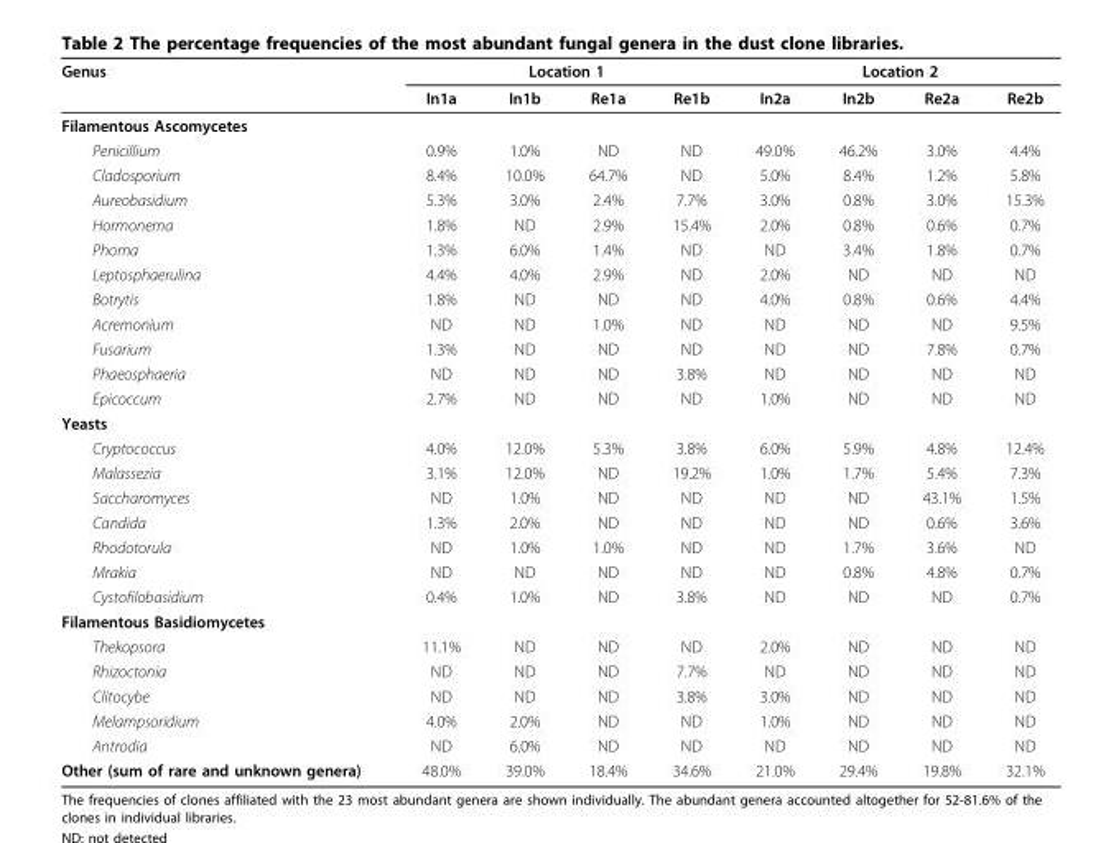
<table><thead><tr><td rowspan="2">Genus</td><td colspan="4">Location 1</td><td colspan="4">Location 2</td></tr><tr><td>In1a</td><td>In1b</td><td>Re1a</td><td>Re1b</td><td>In2a</td><td>In2b</td><td>Re2a</td><td>Re2b</td></tr></thead><tbody><tr><td colspan="9">Filamentous Ascomycetes</td></tr><tr><td>Penicillium</td><td>0.9%</td><td>1.0%</td><td>ND</td><td>ND</td><td>49.0%</td><td>46.2%</td><td>3.0%</td><td>4.4%</td></tr><tr><td>Cladosporium</td><td>8.4%</td><td>10.0%</td><td>64.7%</td><td>ND</td><td>5.0%</td><td>8.4%</td><td>1.2%</td><td>5.8%</td></tr><tr><td>Aureobasidium</td><td>5.3%</td><td>3.0%</td><td>2.4%</td><td>7.7%</td><td>3.0%</td><td>0.8%</td><td>3.0%</td><td>15.3%</td></tr><tr><td>Hormonema</td><td>1.8%</td><td>ND</td><td>2.9%</td><td>15.4%</td><td>2.0%</td><td>0.8%</td><td>0.6%</td><td>0.7%</td></tr><tr><td>Phoma</td><td>1.3%</td><td>6.0%</td><td>1.4%</td><td>ND</td><td>ND</td><td>3.4%</td><td>1.8%</td><td>0.7%</td></tr><tr><td>Leptosphaerulina</td><td>4.4%</td><td>4.0%</td><td>2.9%</td><td>ND</td><td>2.0%</td><td>ND</td><td>ND</td><td>ND</td></tr><tr><td>Botrytis</td><td>1.8%</td><td>ND</td><td>ND</td><td>ND</td><td>4.0%</td><td>0.8%</td><td>0.6%</td><td>4.4%</td></tr><tr><td>Acremonium</td><td>ND</td><td>ND</td><td>1.0%</td><td>ND</td><td>ND</td><td>ND</td><td>ND</td><td>9.5%</td></tr><tr><td>Fusarium</td><td>1.3%</td><td>ND</td><td>ND</td><td>ND</td><td>ND</td><td>ND</td><td>7.8%</td><td>0.7%</td></tr><tr><td>Phaeosphaeria</td><td>ND</td><td>ND</td><td>ND</td><td>3.8%</td><td>ND</td><td>ND</td><td>ND</td><td>ND</td></tr><tr><td>Epicoccum</td><td>2.7%</td><td>ND</td><td>ND</td><td>ND</td><td>1.0%</td><td>ND</td><td>ND</td><td>ND</td></tr><tr><td colspan="9">Yeasts</td></tr><tr><td>Cryptococcus</td><td>4.0%</td><td>12.0%</td><td>5.3%</td><td>3.8%</td><td>6.0%</td><td>5.9%</td><td>4.8%</td><td>12.4%</td></tr><tr><td>Malassezia</td><td>3.1%</td><td>12.0%</td><td>ND</td><td>19.2%</td><td>1.0%</td><td>1.7%</td><td>5.4%</td><td>7.3%</td></tr><tr><td>Saccharomyces</td><td>ND</td><td>1.0%</td><td>ND</td><td>ND</td><td>ND</td><td>ND</td><td>43.1%</td><td>1.5%</td></tr><tr><td>Candida</td><td>1.3%</td><td>2.0%</td><td>ND</td><td>ND</td><td>ND</td><td>ND</td><td>0.6%</td><td>3.6%</td></tr><tr><td>Rhodotorula</td><td>ND</td><td>1.0%</td><td>1.0%</td><td>ND</td><td>ND</td><td>1.7%</td><td>3.6%</td><td>ND</td></tr><tr><td>Mrakia</td><td>ND</td><td>ND</td><td>ND</td><td>ND</td><td>ND</td><td>0.8%</td><td>4.8%</td><td>0.7%</td></tr><tr><td>Cystofilobasidium</td><td>0.4%</td><td>1.0%</td><td>ND</td><td>3.8%</td><td>ND</td><td>ND</td><td>ND</td><td>0.7%</td></tr><tr><td colspan="9">Filamentous Basidiomycetes</td></tr><tr><td>Thekopsora</td><td>11.1%</td><td>ND</td><td>ND</td><td>ND</td><td>2.0%</td><td>ND</td><td>ND</td><td>ND</td></tr><tr><td>Rhizoctonia</td><td>ND</td><td>ND</td><td>ND</td><td>7.7%</td><td>ND</td><td>ND</td><td>ND</td><td>ND</td></tr><tr><td>Clitocybe</td><td>ND</td><td>ND</td><td>ND</td><td>3.8%</td><td>3.0%</td><td>ND</td><td>ND</td><td>ND</td></tr><tr><td>Melampsoridium</td><td>4.0%</td><td>2.0%</td><td>ND</td><td>ND</td><td>1.0%</td><td>ND</td><td>ND</td><td>ND</td></tr><tr><td>Antrodia</td><td>ND</td><td>6.0%</td><td>ND</td><td>ND</td><td>ND</td><td>ND</td><td>ND</td><td>ND</td></tr><tr><td>Other (sum of rare and unknown genera)</td><td>48.0%</td><td>39.0%</td><td>18.4%</td><td>34.6%</td><td>21.0%</td><td>29.4%</td><td>19.8%</td><td>32.1%</td></tr></tbody></table>